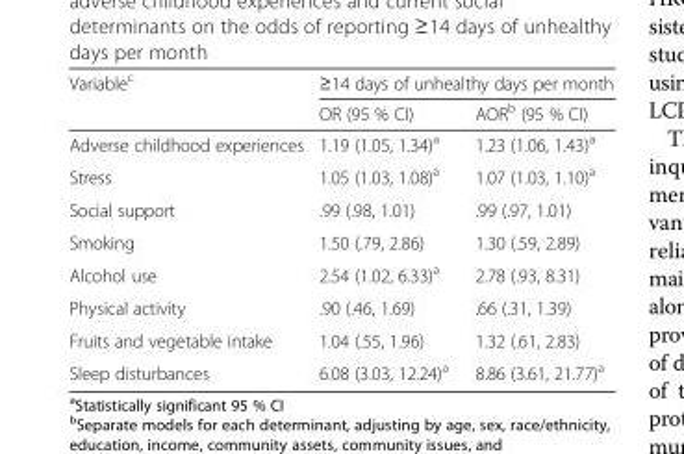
<table><thead><tr><td rowspan="2">Variable<sup>c</sup></td><td colspan="2">≥14 days of unhealthy days per month</td></tr><tr><td>OR (95 % CI)</td><td>AOR<sup>b</sup> (95 % CI)</td></tr></thead><tbody><tr><td>Adverse childhood experiences</td><td>1.19 (1.05, 1.34)<sup>a</sup></td><td>1.23 (1.06, 1.43)<sup>a</sup></td></tr><tr><td>Stress</td><td>1.05 (1.03, 1.08)<sup>a</sup></td><td>1.07 (1.03, 1.10)<sup>a</sup></td></tr><tr><td>Social support</td><td>.99 (.98, 1.01)</td><td>.99 (.97, 1.01)</td></tr><tr><td>Smoking</td><td>1.50 (.79, 2.86)</td><td>1.30 (.59, 2.89)</td></tr><tr><td>Alcohol use</td><td>2.54 (1.02, 6.33)<sup>a</sup></td><td>2.78 (.93, 8.31)</td></tr><tr><td>Physical activity</td><td>.90 (.46, 1.69)</td><td>.66 (.31, 1.39)</td></tr><tr><td>Fruits and vegetable intake</td><td>1.04 (.55, 1.96)</td><td>1.32 (.61, 2.83)</td></tr><tr><td>Sleep disturbances</td><td>6.08 (3.03, 12.24)<sup>a</sup></td><td>8.86 (3.61, 21.77)<sup>a</sup></td></tr></tbody></table>